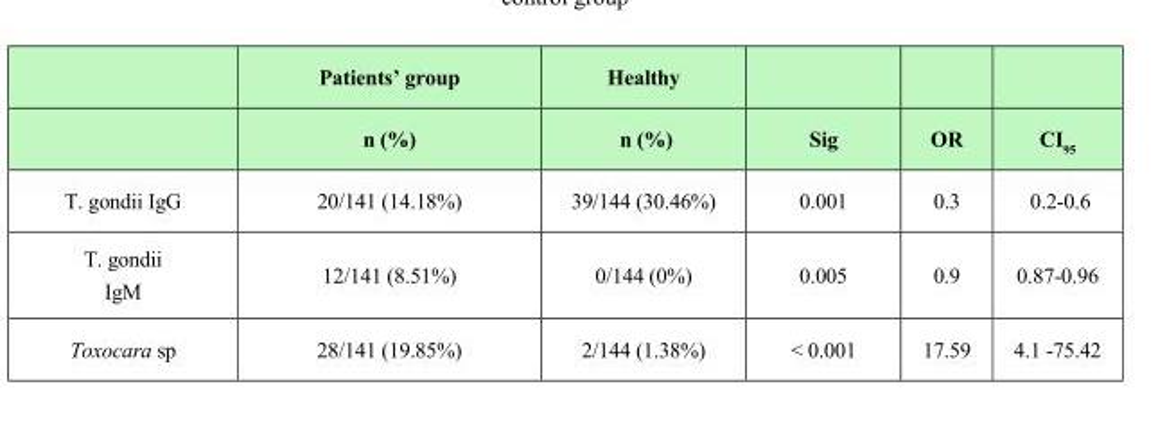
<table><thead><tr><td rowspan="2"></td><td rowspan="2">Patients’ group n (%)</td><td rowspan="2">Healthy n (%)</td><td rowspan="2">Sig</td><td rowspan="2">OR</td><td rowspan="2">CI<sub>95</sub></td></tr><tr></tr></thead><tbody><tr><td>T. gondii IgG</td><td>20/141 (14.18%)</td><td>39/144 (30.46%)</td><td>0.001</td><td>0.3</td><td>0.2-0.6</td></tr><tr><td>T. gondii IgM</td><td>12/141 (8.51%)</td><td>0/144 (0%)</td><td>0.005</td><td>0.9</td><td>0.87-0.96</td></tr><tr><td>Toxocara sp</td><td>28/141 (19.85%)</td><td>2/144 (1.38%)</td><td>&lt; 0.001</td><td>17.59</td><td>4.1 -75.42</td></tr></tbody></table>